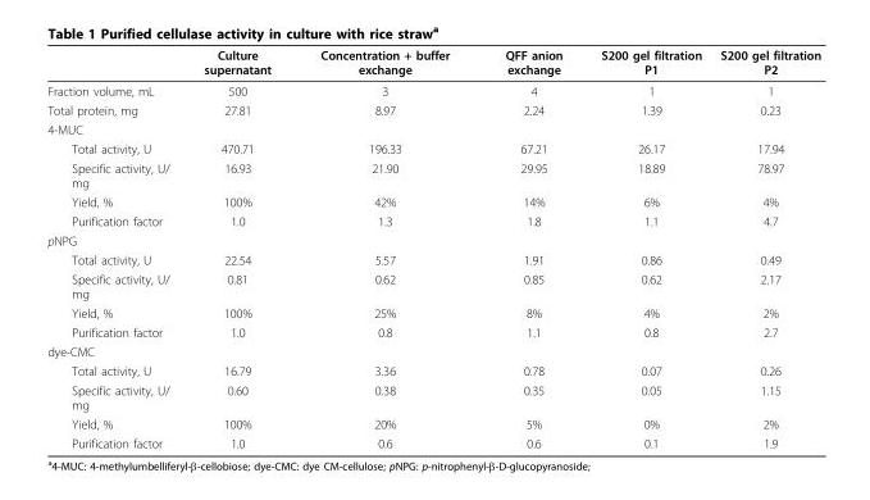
<table><thead><tr><td></td><td>Culture supernatant</td><td>Concentration + buffer exchange</td><td>QFF anion exchange</td><td>S200 gel filtration P1</td><td>S200 gel filtration P2</td></tr></thead><tbody><tr><td>Fraction volume, mL</td><td>500</td><td>3</td><td>4</td><td>1</td><td>1</td></tr><tr><td>Total protein, mg</td><td>27.81</td><td>8.97</td><td>2.24</td><td>1.39</td><td>0.23</td></tr><tr><td colspan="6">4-MUC</td></tr><tr><td>Total activity, U</td><td>470.71</td><td>196.33</td><td>67.21</td><td>26.17</td><td>17.94</td></tr><tr><td>Specific activity, U/ mg</td><td>16.93</td><td>21.90</td><td>29.95</td><td>18.89</td><td>78.97</td></tr><tr><td>Yield, %</td><td>100%</td><td>42%</td><td>14%</td><td>6%</td><td>4%</td></tr><tr><td>Purification factor</td><td>1.0</td><td>1.3</td><td>1.8</td><td>1.1</td><td>4.7</td></tr><tr><td colspan="6">pNPG</td></tr><tr><td>Total activity, U</td><td>22.54</td><td>5.57</td><td>1.91</td><td>0.86</td><td>0.49</td></tr><tr><td>Specific activity, U/ mg</td><td>0.81</td><td>0.62</td><td>0.85</td><td>0.62</td><td>2.17</td></tr><tr><td>Yield, %</td><td>100%</td><td>25%</td><td>8%</td><td>4%</td><td>2%</td></tr><tr><td>Purification factor</td><td>1.0</td><td>0.8</td><td>1.1</td><td>0.8</td><td>2.7</td></tr><tr><td colspan="6">dye-CMC</td></tr><tr><td>Total activity, U</td><td>16.79</td><td>3.36</td><td>0.78</td><td>0.07</td><td>0.26</td></tr><tr><td>Specific activity, U/ mg</td><td>0.60</td><td>0.38</td><td>0.35</td><td>0.05</td><td>1.15</td></tr><tr><td>Yield, %</td><td>100%</td><td>20%</td><td>5%</td><td>0%</td><td>2%</td></tr><tr><td>Purification factor</td><td>1.0</td><td>0.6</td><td>0.6</td><td>0.1</td><td>1.9</td></tr></tbody></table>